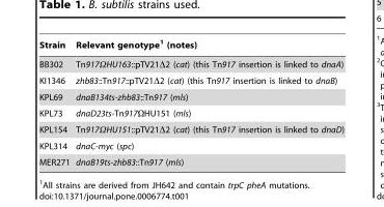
<table><thead><tr><td>Strain</td><td>Relevant genotype<sup>1</sup> (notes)</td></tr></thead><tbody><tr><td>BB302</td><td>Tn917ΩHU163::pTV21Δ2 (cat) (this Tn917 insertion is linked to dnaA)</td></tr><tr><td>KI1346</td><td>zhb83::Tn917::pTV21Δ2 (cat) (this Tn917 insertion is linked to dnaB)</td></tr><tr><td>KPL69</td><td>dnaB134ts-zhb83::Tn917 (mls)</td></tr><tr><td>KPL73</td><td>dnaD23ts-Tn917ΩHU151 (mls)</td></tr><tr><td>KPL154</td><td>Tn917ΩHU151::pTV21Δ2 (cat) (this Tn917 insertion is linked to dnaD)</td></tr><tr><td>KPL314</td><td>dnaC-myc (spc)</td></tr><tr><td>MER271</td><td>dnaB19ts-zhb83::Tn917 (mls)</td></tr></tbody></table>